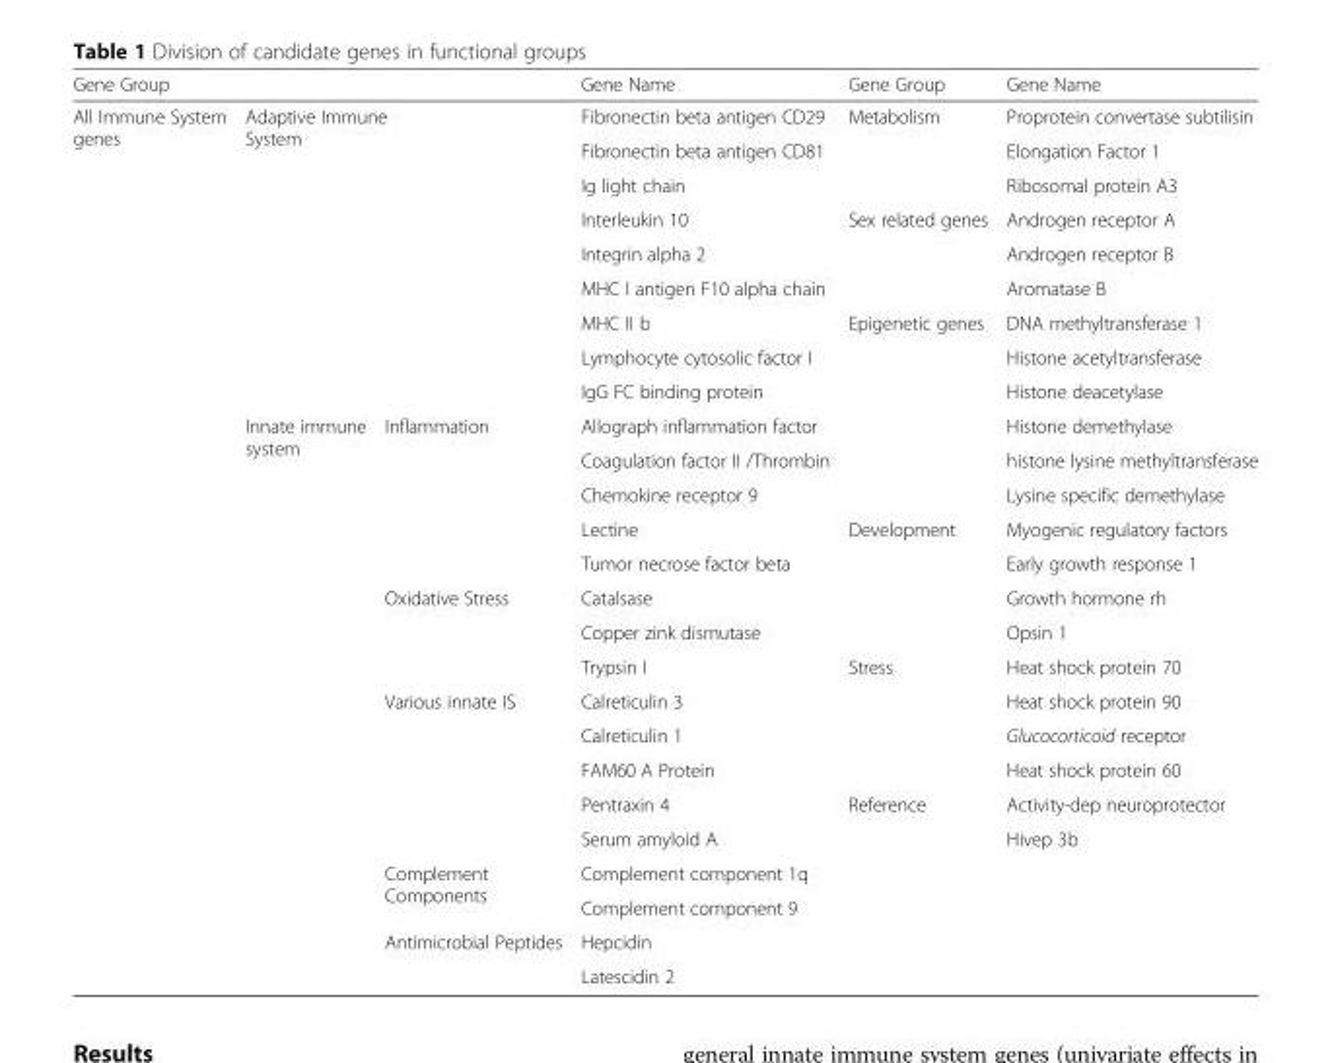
<table><thead><tr><td colspan="3">Gene Group</td><td>Gene Name</td><td>Gene Group</td><td>Gene Name</td></tr></thead><tbody><tr><td rowspan="26">All Immune System genes</td><td rowspan="9" colspan="2">Adaptive Immune System</td><td>Fibronectin beta antigen CD29</td><td rowspan="3">Metabolism</td><td>Proprotein convertase subtilisin</td></tr><tr><td>Fibronectin beta antigen CD81</td><td>Elongation Factor 1</td></tr><tr><td>Ig light chain</td><td>Ribosomal protein A3</td></tr><tr><td>Interleukin 10</td><td rowspan="3">Sex related genes</td><td>Androgen receptor A</td></tr><tr><td>Integrin alpha 2</td><td>Androgen receptor B</td></tr><tr><td>MHC I antigen F10 alpha chain</td><td>Aromatase B</td></tr><tr><td>MHC II b</td><td rowspan="6">Epigenetic genes</td><td>DNA methyltransferase 1</td></tr><tr><td>Lymphocyte cytosolic factor I</td><td>Histone acetyltransferase</td></tr><tr><td>IgG FC binding protein</td><td>Histone deacetylase</td></tr><tr><td rowspan="17">Innate immune system</td><td rowspan="5">Inflammation</td><td>Allograph inflammation factor</td><td>Histone demethylase</td></tr><tr><td>Coagulation factor II /Thrombin</td><td>histone lysine methyltransferase</td></tr><tr><td>Chemokine receptor 9</td><td>Lysine specific demethylase</td></tr><tr><td>Lectine</td><td rowspan="4">Development</td><td>Myogenic regulatory factors</td></tr><tr><td>Tumor necrose factor beta</td><td>Early growth response 1</td></tr><tr><td rowspan="3">Oxidative Stress</td><td>Catalsase</td><td>Growth hormone rh</td></tr><tr><td>Copper zink dismutase</td><td>Opsin 1</td></tr><tr><td>Trypsin I</td><td rowspan="4">Stress</td><td>Heat shock protein 70</td></tr><tr><td rowspan="5">Various innate IS</td><td>Calreticulin 3</td><td>Heat shock protein 90</td></tr><tr><td>Calreticulin 1</td><td>Glucocorticoid receptor</td></tr><tr><td>FAM60 A Protein</td><td>Heat shock protein 60</td></tr><tr><td>Pentraxin 4</td><td rowspan="2">Reference</td><td>Activity-dep neuroprotector</td></tr><tr><td>Serum amyloid A</td><td>Hivep 3b</td></tr><tr><td rowspan="2">Complement Components</td><td>Complement component 1q</td><td></td><td></td></tr><tr><td>Complement component 9</td><td></td><td></td></tr><tr><td rowspan="2">Antimicrobial Peptides</td><td>Hepcidin</td><td></td><td></td></tr><tr><td>Latescidin 2</td><td></td><td></td></tr></tbody></table>